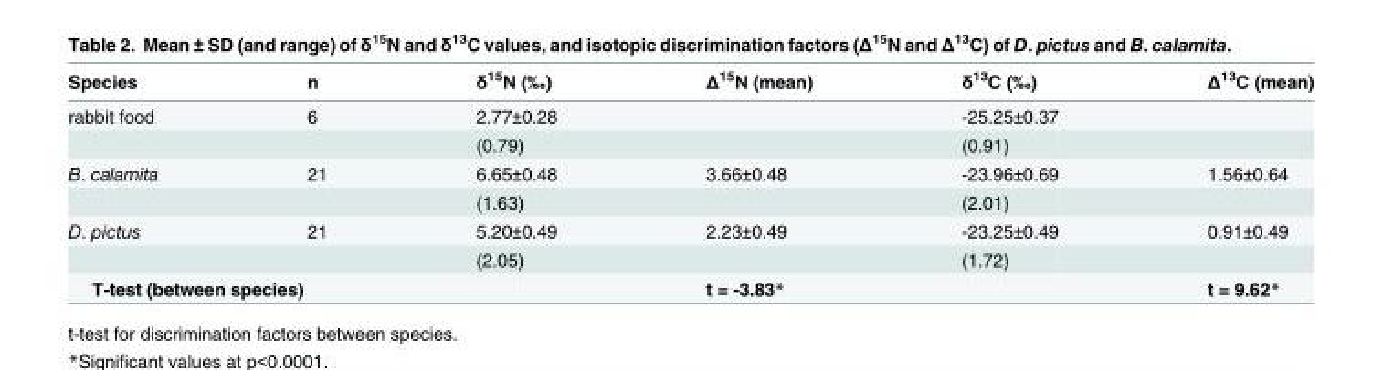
<table><thead><tr><td>Species</td><td>n</td><td>δ<sup>15</sup>N (‰)</td><td>Δ<sup>15</sup>N (mean)</td><td>δ<sup>13</sup>C (‰)</td><td>Δ<sup>13</sup>C (mean)</td></tr></thead><tbody><tr><td rowspan="2">rabbit food</td><td>6</td><td>2.77±0.28</td><td></td><td>-25.25±0.37</td><td></td></tr><tr><td></td><td>(0.79)</td><td></td><td>(0.91)</td><td></td></tr><tr><td rowspan="2">B. calamita</td><td>21</td><td>6.65±0.48</td><td>3.66±0.48</td><td>-23.96±0.69</td><td>1.56±0.64</td></tr><tr><td></td><td>(1.63)</td><td></td><td>(2.01)</td><td></td></tr><tr><td rowspan="2">D. pictus</td><td>21</td><td>5.20±0.49</td><td>2.23±0.49</td><td>-23.25±0.49</td><td>0.91±0.49</td></tr><tr><td></td><td>(2.05)</td><td></td><td>(1.72)</td><td></td></tr><tr><td colspan="2">T-test (between species)</td><td></td><td>t = -3.83*</td><td></td><td>t = 9.62*</td></tr></tbody></table>